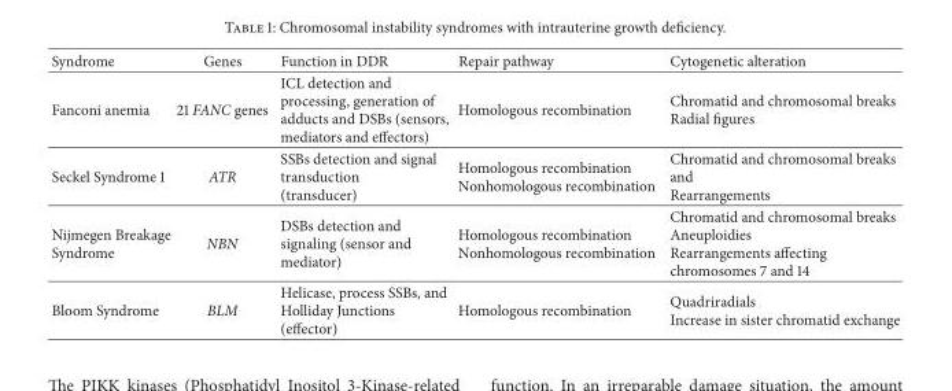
<table><thead><tr><td>Syndrome</td><td>Genes</td><td>Function in DDR</td><td>Repair pathway</td><td>Cytogenetic alteration</td></tr></thead><tbody><tr><td>Fanconi anemia</td><td>21 FANC genes</td><td>ICL detection and processing, generation of adducts and DSBs (sensors, mediators and effectors)</td><td>Homologous recombination</td><td>Chromatid and chromosomal breaks Radial figures</td></tr><tr><td>Seckel Syndrome 1</td><td>ATR</td><td>SSBs detection and signal transduction (transducer)</td><td>Homologous recombination Nonhomologous recombination</td><td>Chromatid and chromosomal breaks and Rearrangements</td></tr><tr><td>Nijmegen Breakage Syndrome</td><td>NBN</td><td>DSBs detection and signaling (sensor and mediator)</td><td>Homologous recombination Nonhomologous recombination</td><td>Chromatid and chromosomal breaks Aneuploidies Rearrangements affecting chromosomes 7 and 14</td></tr><tr><td>Bloom Syndrome</td><td>BLM</td><td>Helicase, process SSBs, and Holliday Junctions (effector)</td><td>Homologous recombination</td><td>Quadriradials Increase in sister chromatid exchange</td></tr></tbody></table>